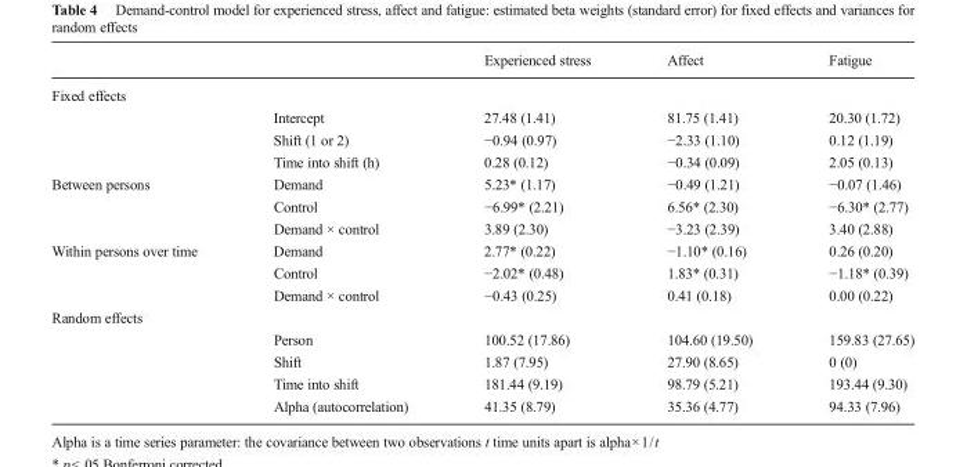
<table><thead><tr><td></td><td></td><td>Experienced stress</td><td>Affect</td><td>Fatigue</td></tr></thead><tbody><tr><td colspan="5">Fixed effects</td></tr><tr><td></td><td>Intercept</td><td>27.48 (1.41)</td><td>81.75 (1.41)</td><td>20.30 (1.72)</td></tr><tr><td></td><td>Shift (1 or 2)</td><td>−0.94 (0.97)</td><td>−2.33 (1.10)</td><td>0.12 (1.19)</td></tr><tr><td></td><td>Time into shift (h)</td><td>0.28 (0.12)</td><td>−0.34 (0.09)</td><td>2.05 (0.13)</td></tr><tr><td rowspan="3">Between persons</td><td>Demand</td><td>5.23* (1.17)</td><td>−0.49 (1.21)</td><td>−0.07 (1.46)</td></tr><tr><td>Control</td><td>−6.99* (2.21)</td><td>6.56* (2.30)</td><td>−6.30* (2.77)</td></tr><tr><td>Demand × control</td><td>3.89 (2.30)</td><td>−3.23 (2.39)</td><td>3.40 (2.88)</td></tr><tr><td rowspan="3">Within persons over time</td><td>Demand</td><td>2.77* (0.22)</td><td>−1.10* (0.16)</td><td>0.26 (0.20)</td></tr><tr><td>Control</td><td>−2.02* (0.48)</td><td>1.83* (0.31)</td><td>−1.18* (0.39)</td></tr><tr><td>Demand × control</td><td>−0.43 (0.25)</td><td>0.41 (0.18)</td><td>0.00 (0.22)</td></tr><tr><td colspan="5">Random effects</td></tr><tr><td></td><td>Person</td><td>100.52 (17.86)</td><td>104.60 (19.50)</td><td>159.83 (27.65)</td></tr><tr><td></td><td>Shift</td><td>1.87 (7.95)</td><td>27.90 (8.65)</td><td>0 (0)</td></tr><tr><td></td><td>Time into shift</td><td>181.44 (9.19)</td><td>98.79 (5.21)</td><td>193.44 (9.30)</td></tr><tr><td></td><td>Alpha (autocorrelation)</td><td>41.35 (8.79)</td><td>35.36 (4.77)</td><td>94.33 (7.96)</td></tr></tbody></table>